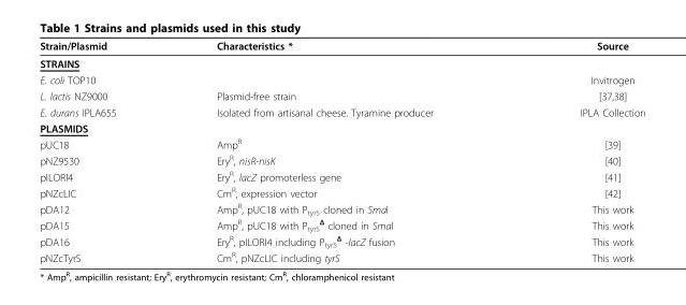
<table><thead><tr><td>Strain/Plasmid</td><td>Characteristics *</td><td>Source</td></tr></thead><tbody><tr><td colspan="3">STRAINS</td></tr><tr><td>E. coli TOP10</td><td></td><td>Invitrogen</td></tr><tr><td>L. lactis NZ9000</td><td>Plasmid-free strain</td><td>[37,38]</td></tr><tr><td>E. durans IPLA655</td><td>Isolated from artisanal cheese. Tyramine producer</td><td>IPLA Collection</td></tr><tr><td colspan="3">PLASMIDS</td></tr><tr><td>pUC18</td><td>Amp<sup>R</sup></td><td>[39]</td></tr><tr><td>pNZ9530</td><td>Ery<sup>R</sup>, nisR-nisK</td><td>[40]</td></tr><tr><td>pILORI4</td><td>Ery<sup>R</sup>, lacZ promoterless gene</td><td>[41]</td></tr><tr><td>pNZcLIC</td><td>Cm<sup>R</sup>, expression vector</td><td>[42]</td></tr><tr><td>pDA12</td><td>Amp<sup>R</sup>, pUC18 with P<sub>tyrS</sub> cloned in SmaI</td><td>This work</td></tr><tr><td>pDA15</td><td>Amp<sup>R</sup>, pUC18 with P<sub>tyrS</sub> <sup>Δ</sup> cloned in SmaI</td><td>This work</td></tr><tr><td>pDA16</td><td>Ery<sup>R</sup>, pILORI4 including P<sub>tyrS</sub> <sup>Δ</sup> -lacZ fusion</td><td>This work</td></tr><tr><td>pNZcTyrS</td><td>Cm<sup>R</sup>, pNZcLIC including tyrS</td><td>This work</td></tr></tbody></table>